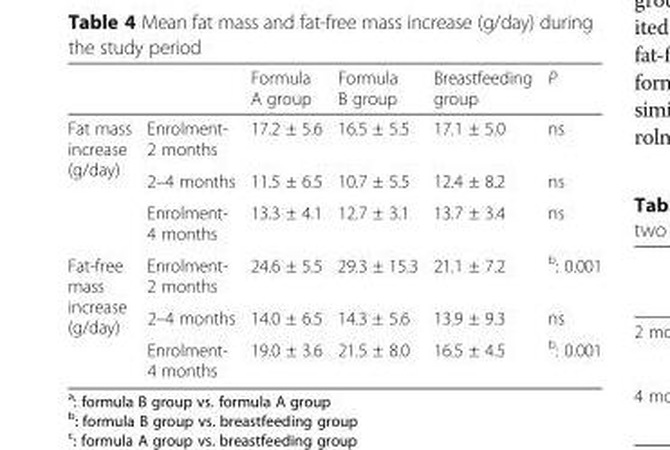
<table><thead><tr><td></td><td></td><td>Formula A group</td><td>Formula B group</td><td>Breastfeeding group</td><td>P</td></tr></thead><tbody><tr><td rowspan="3">Fat mass increase (g/day)</td><td>Enrolment- 2 months</td><td>17.2 ± 5.6</td><td>16.5 ± 5.5</td><td>17.1 ± 5.0</td><td>ns</td></tr><tr><td>2–4 months</td><td>11.5 ± 6.5</td><td>10.7 ± 5.5</td><td>12.4 ± 8.2</td><td>ns</td></tr><tr><td>Enrolment- 4 months</td><td>13.3 ± 4.1</td><td>12.7 ± 3.1</td><td>13.7 ± 3.4</td><td>ns</td></tr><tr><td rowspan="3">Fat-free mass increase (g/day)</td><td>Enrolment- 2 months</td><td>24.6 ± 5.5</td><td>29.3 ± 15.3</td><td>21.1 ± 7.2</td><td><sup>b</sup>: 0.001</td></tr><tr><td>2–4 months</td><td>14.0 ± 6.5</td><td>14.3 ± 5.6</td><td>13.9 ± 9.3</td><td>ns</td></tr><tr><td>Enrolment- 4 months</td><td>19.0 ± 3.6</td><td>21.5 ± 8.0</td><td>16.5 ± 4.5</td><td><sup>b</sup>: 0.001</td></tr></tbody></table>